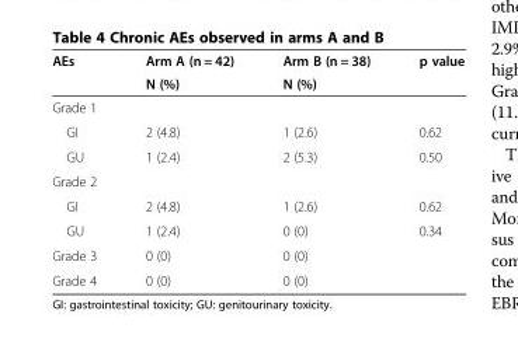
<table><thead><tr><td rowspan="2">AEs</td><td rowspan="2">Arm A (n = 42) N (%)</td><td rowspan="2">Arm B (n = 38) N (%)</td><td rowspan="2">p value</td></tr><tr></tr></thead><tbody><tr><td colspan="4">Grade 1</td></tr><tr><td>GI</td><td>2 (4.8)</td><td>1 (2.6)</td><td>0.62</td></tr><tr><td>GU</td><td>1 (2.4)</td><td>2 (5.3)</td><td>0.50</td></tr><tr><td colspan="4">Grade 2</td></tr><tr><td>GI</td><td>2 (4.8)</td><td>1 (2.6)</td><td>0.62</td></tr><tr><td>GU</td><td>1 (2.4)</td><td>0 (0)</td><td>0.34</td></tr><tr><td>Grade 3</td><td>0 (0)</td><td>0 (0)</td><td></td></tr><tr><td>Grade 4</td><td>0 (0)</td><td>0 (0)</td><td></td></tr></tbody></table>